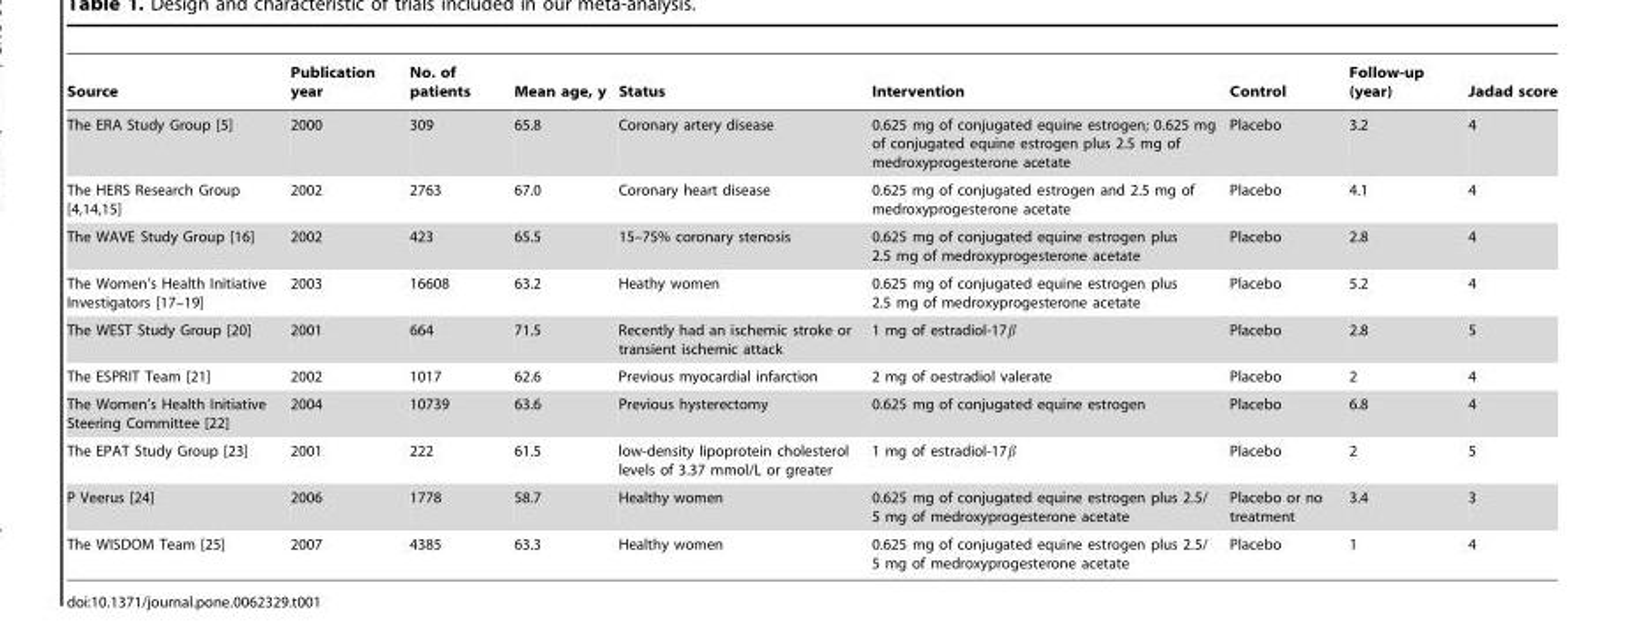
<table><thead><tr><td>Source</td><td>Publication year</td><td>No. of patients</td><td>Mean age, y</td><td>Status</td><td>Intervention</td><td>Control</td><td>Follow-up (year)</td><td>Jadad score</td></tr></thead><tbody><tr><td>The ERA Study Group [5]</td><td>2000</td><td>309</td><td>65.8</td><td>Coronary artery disease</td><td>0.625 mg of conjugated equine estrogen; 0.625 mg of conjugated equine estrogen plus 2.5 mg of medroxyprogesterone acetate</td><td>Placebo</td><td>3.2</td><td>4</td></tr><tr><td>The HERS Research Group [4,14,15]</td><td>2002</td><td>2763</td><td>67.0</td><td>Coronary heart disease</td><td>0.625 mg of conjugated estrogen and 2.5 mg of medroxyprogesterone acetate</td><td>Placebo</td><td>4.1</td><td>4</td></tr><tr><td>The WAVE Study Group [16]</td><td>2002</td><td>423</td><td>65.5</td><td>15–75% coronary stenosis</td><td>0.625 mg of conjugated equine estrogen plus 2.5 mg of medroxyprogesterone acetate</td><td>Placebo</td><td>2.8</td><td>4</td></tr><tr><td>The Women’s Health Initiative Investigators [17–19]</td><td>2003</td><td>16608</td><td>63.2</td><td>Heathy women</td><td>0.625 mg of conjugated equine estrogen plus 2.5 mg of medroxyprogesterone acetate</td><td>Placebo</td><td>5.2</td><td>4</td></tr><tr><td>The WEST Study Group [20]</td><td>2001</td><td>664</td><td>71.5</td><td>Recently had an ischemic stroke or transient ischemic attack</td><td>1 mg of estradiol-17β</td><td>Placebo</td><td>2.8</td><td>5</td></tr><tr><td>The ESPRIT Team [21]</td><td>2002</td><td>1017</td><td>62.6</td><td>Previous myocardial infarction</td><td>2 mg of oestradiol valerate</td><td>Placebo</td><td>2</td><td>4</td></tr><tr><td>The Women’s Health Initiative Steering Committee [22]</td><td>2004</td><td>10739</td><td>63.6</td><td>Previous hysterectomy</td><td>0.625 mg of conjugated equine estrogen</td><td>Placebo</td><td>6.8</td><td>4</td></tr><tr><td>The EPAT Study Group [23]</td><td>2001</td><td>222</td><td>61.5</td><td>low-density lipoprotein cholesterol levels of 3.37 mmol/L or greater</td><td>1 mg of estradiol-17β</td><td>Placebo</td><td>2</td><td>5</td></tr><tr><td>P Veerus [24]</td><td>2006</td><td>1778</td><td>58.7</td><td>Healthy women</td><td>0.625 mg of conjugated equine estrogen plus 2.5/ 5 mg of medroxyprogesterone acetate</td><td>Placebo or no treatment</td><td>3.4</td><td>3</td></tr><tr><td>The WISDOM Team [25]</td><td>2007</td><td>4385</td><td>63.3</td><td>Healthy women</td><td>0.625 mg of conjugated equine estrogen plus 2.5/ 5 mg of medroxyprogesterone acetate</td><td>Placebo</td><td>1</td><td>4</td></tr></tbody></table>